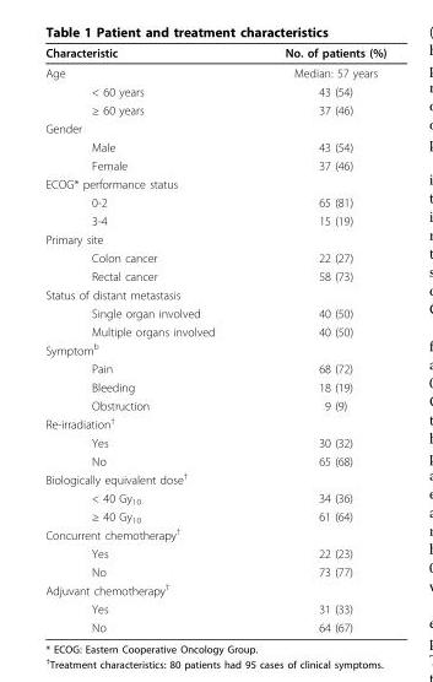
<table><thead><tr><td>Characteristic</td><td>No. of patients (%)</td></tr></thead><tbody><tr><td>Age</td><td>Median: 57 years</td></tr><tr><td>&lt; 60 years</td><td>43 (54)</td></tr><tr><td>≥ 60 years</td><td>37 (46)</td></tr><tr><td colspan="2">Gender</td></tr><tr><td>Male</td><td>43 (54)</td></tr><tr><td>Female</td><td>37 (46)</td></tr><tr><td colspan="2">ECOG* performance status</td></tr><tr><td>0-2</td><td>65 (81)</td></tr><tr><td>3-4</td><td>15 (19)</td></tr><tr><td colspan="2">Primary site</td></tr><tr><td>Colon cancer</td><td>22 (27)</td></tr><tr><td>Rectal cancer</td><td>58 (73)</td></tr><tr><td colspan="2">Status of distant metastasis</td></tr><tr><td>Single organ involved</td><td>40 (50)</td></tr><tr><td>Multiple organs involved</td><td>40 (50)</td></tr><tr><td colspan="2">Symptom<sup>b</sup></td></tr><tr><td>Pain</td><td>68 (72)</td></tr><tr><td>Bleeding</td><td>18 (19)</td></tr><tr><td>Obstruction</td><td>9 (9)</td></tr><tr><td colspan="2">Re-irradiation<sup>†</sup></td></tr><tr><td>Yes</td><td>30 (32)</td></tr><tr><td>No</td><td>65 (68)</td></tr><tr><td colspan="2">Biologically equivalent dose<sup>†</sup></td></tr><tr><td>&lt; 40 Gy<sub>10</sub></td><td>34 (36)</td></tr><tr><td>≥ 40 Gy<sub>10</sub></td><td>61 (64)</td></tr><tr><td colspan="2">Concurrent chemotherapy<sup>†</sup></td></tr><tr><td>Yes</td><td>22 (23)</td></tr><tr><td>No</td><td>73 (77)</td></tr><tr><td colspan="2">Adjuvant chemotherapy<sup>†</sup></td></tr><tr><td>Yes</td><td>31 (33)</td></tr><tr><td>No</td><td>64 (67)</td></tr></tbody></table>